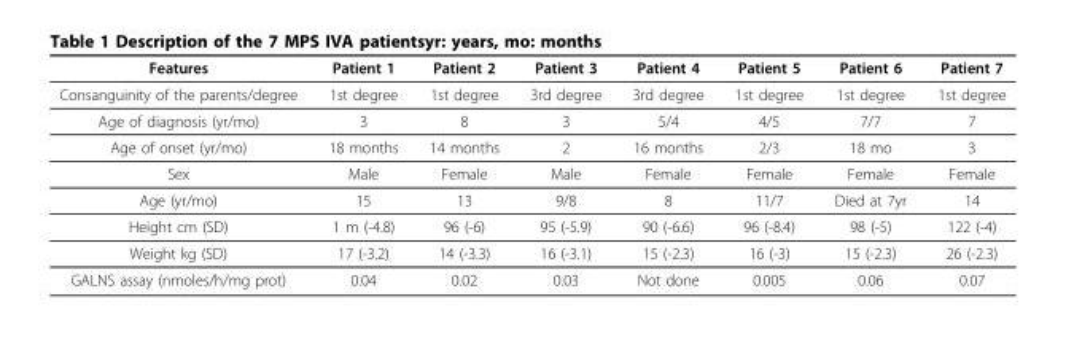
<table><thead><tr><td>Features</td><td>Patient 1</td><td>Patient 2</td><td>Patient 3</td><td>Patient 4</td><td>Patient 5</td><td>Patient 6</td><td>Patient 7</td></tr></thead><tbody><tr><td>Consanguinity of the parents/degree</td><td>1st degree</td><td>1st degree</td><td>3rd degree</td><td>3rd degree</td><td>1st degree</td><td>1st degree</td><td>1st degree</td></tr><tr><td>Age of diagnosis (yr/mo)</td><td>3</td><td>8</td><td>3</td><td>5/4</td><td>4/5</td><td>7/7</td><td>7</td></tr><tr><td>Age of onset (yr/mo)</td><td>18 months</td><td>14 months</td><td>2</td><td>16 months</td><td>2/3</td><td>18 mo</td><td>3</td></tr><tr><td>Sex</td><td>Male</td><td>Female</td><td>Male</td><td>Female</td><td>Female</td><td>Female</td><td>Female</td></tr><tr><td>Age (yr/mo)</td><td>15</td><td>13</td><td>9/8</td><td>8</td><td>11/7</td><td>Died at 7yr</td><td>14</td></tr><tr><td>Height cm (SD)</td><td>1 m (-4.8)</td><td>96 (-6)</td><td>95 (-5.9)</td><td>90 (-6.6)</td><td>96 (-8.4)</td><td>98 (-5)</td><td>122 (-4)</td></tr><tr><td>Weight kg (SD)</td><td>17 (-3.2)</td><td>14 (-3.3)</td><td>16 (-3.1)</td><td>15 (-2.3)</td><td>16 (-3)</td><td>15 (-2.3)</td><td>26 (-2.3)</td></tr><tr><td>GALNS assay (nmoles/h/mg prot)</td><td>0.04</td><td>0.02</td><td>0.03</td><td>Not done</td><td>0.005</td><td>0.06</td><td>0.07</td></tr></tbody></table>